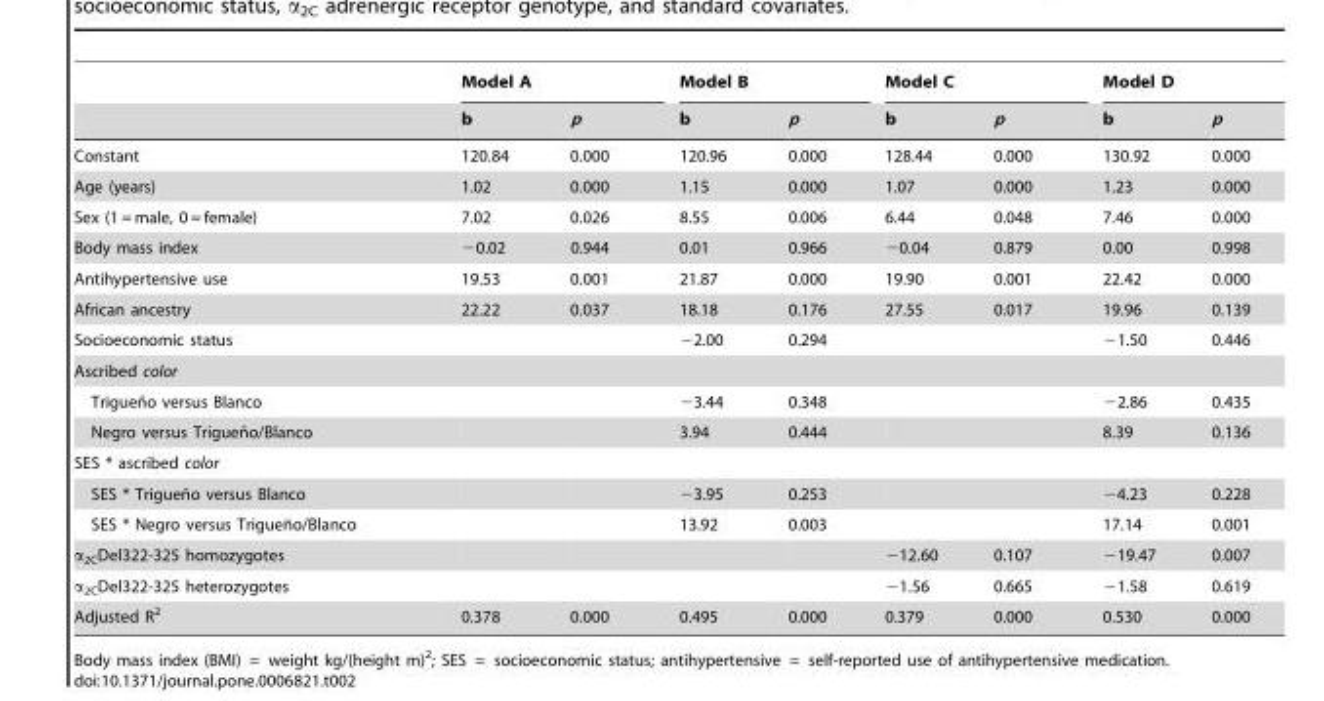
<table><thead><tr><td rowspan="2"></td><td colspan="2">Model A</td><td colspan="2">Model B</td><td colspan="2">Model C</td><td colspan="2">Model D</td></tr><tr><td>b</td><td>p</td><td>b</td><td>p</td><td>b</td><td>p</td><td>b</td><td>p</td></tr></thead><tbody><tr><td>Constant</td><td>120.84</td><td>0.000</td><td>120.96</td><td>0.000</td><td>128.44</td><td>0.000</td><td>130.92</td><td>0.000</td></tr><tr><td>Age (years)</td><td>1.02</td><td>0.000</td><td>1.15</td><td>0.000</td><td>1.07</td><td>0.000</td><td>1.23</td><td>0.000</td></tr><tr><td>Sex (1 = male, 0 = female)</td><td>7.02</td><td>0.026</td><td>8.55</td><td>0.006</td><td>6.44</td><td>0.048</td><td>7.46</td><td>0.000</td></tr><tr><td>Body mass index</td><td>−0.02</td><td>0.944</td><td>0.01</td><td>0.966</td><td>−0.04</td><td>0.879</td><td>0.00</td><td>0.998</td></tr><tr><td>Antihypertensive use</td><td>19.53</td><td>0.001</td><td>21.87</td><td>0.000</td><td>19.90</td><td>0.001</td><td>22.42</td><td>0.000</td></tr><tr><td>African ancestry</td><td>22.22</td><td>0.037</td><td>18.18</td><td>0.176</td><td>27.55</td><td>0.017</td><td>19.96</td><td>0.139</td></tr><tr><td>Socioeconomic status</td><td></td><td></td><td>−2.00</td><td>0.294</td><td></td><td></td><td>−1.50</td><td>0.446</td></tr><tr><td colspan="9">Ascribed color</td></tr><tr><td>Triguen˜o versus Blanco</td><td></td><td></td><td>−3.44</td><td>0.348</td><td></td><td></td><td>−2.86</td><td>0.435</td></tr><tr><td>Negro versus Triguen˜o/Blanco</td><td></td><td></td><td>3.94</td><td>0.444</td><td></td><td></td><td>8.39</td><td>0.136</td></tr><tr><td colspan="9">SES * ascribed color</td></tr><tr><td>SES * Triguen˜o versus Blanco</td><td></td><td></td><td>−3.95</td><td>0.253</td><td></td><td></td><td>−4.23</td><td>0.228</td></tr><tr><td>SES * Negro versus Triguen˜o/Blanco</td><td></td><td></td><td>13.92</td><td>0.003</td><td></td><td></td><td>17.14</td><td>0.001</td></tr><tr><td>α<sub>2C</sub>Del322-325 homozygotes</td><td></td><td></td><td></td><td></td><td>−12.60</td><td>0.107</td><td>−19.47</td><td>0.007</td></tr><tr><td>α<sub>2C</sub>Del322-325 heterozygotes</td><td></td><td></td><td></td><td></td><td>−1.56</td><td>0.665</td><td>−1.58</td><td>0.619</td></tr><tr><td>Adjusted R<sup>2</sup></td><td>0.378</td><td>0.000</td><td>0.495</td><td>0.000</td><td>0.379</td><td>0.000</td><td>0.530</td><td>0.000</td></tr></tbody></table>